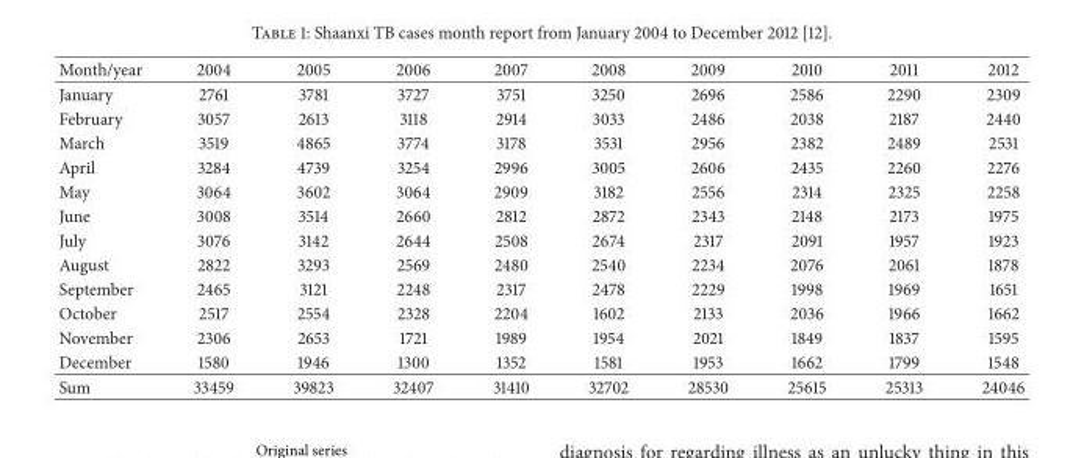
<table><thead><tr><td>Month/year</td><td>2004</td><td>2005</td><td>2006</td><td>2007</td><td>2008</td><td>2009</td><td>2010</td><td>2011</td><td>2012</td></tr></thead><tbody><tr><td>January</td><td>2761</td><td>3781</td><td>3727</td><td>3751</td><td>3250</td><td>2696</td><td>2586</td><td>2290</td><td>2309</td></tr><tr><td>February</td><td>3057</td><td>2613</td><td>3118</td><td>2914</td><td>3033</td><td>2486</td><td>2038</td><td>2187</td><td>2440</td></tr><tr><td>March</td><td>3519</td><td>4865</td><td>3774</td><td>3178</td><td>3531</td><td>2956</td><td>2382</td><td>2489</td><td>2531</td></tr><tr><td>April</td><td>3284</td><td>4739</td><td>3254</td><td>2996</td><td>3005</td><td>2606</td><td>2435</td><td>2260</td><td>2276</td></tr><tr><td>May</td><td>3064</td><td>3602</td><td>3064</td><td>2909</td><td>3182</td><td>2556</td><td>2314</td><td>2325</td><td>2258</td></tr><tr><td>June</td><td>3008</td><td>3514</td><td>2660</td><td>2812</td><td>2872</td><td>2343</td><td>2148</td><td>2173</td><td>1975</td></tr><tr><td>July</td><td>3076</td><td>3142</td><td>2644</td><td>2508</td><td>2674</td><td>2317</td><td>2091</td><td>1957</td><td>1923</td></tr><tr><td>August</td><td>2822</td><td>3293</td><td>2569</td><td>2480</td><td>2540</td><td>2234</td><td>2076</td><td>2061</td><td>1878</td></tr><tr><td>September</td><td>2465</td><td>3121</td><td>2248</td><td>2317</td><td>2478</td><td>2229</td><td>1998</td><td>1969</td><td>1651</td></tr><tr><td>October</td><td>2517</td><td>2554</td><td>2328</td><td>2204</td><td>1602</td><td>2133</td><td>2036</td><td>1966</td><td>1662</td></tr><tr><td>November</td><td>2306</td><td>2653</td><td>1721</td><td>1989</td><td>1954</td><td>2021</td><td>1849</td><td>1837</td><td>1595</td></tr><tr><td>December</td><td>1580</td><td>1946</td><td>1300</td><td>1352</td><td>1581</td><td>1953</td><td>1662</td><td>1799</td><td>1548</td></tr><tr><td>Sum</td><td>33459</td><td>39823</td><td>32407</td><td>31410</td><td>32702</td><td>28530</td><td>25615</td><td>25313</td><td>24046</td></tr></tbody></table>